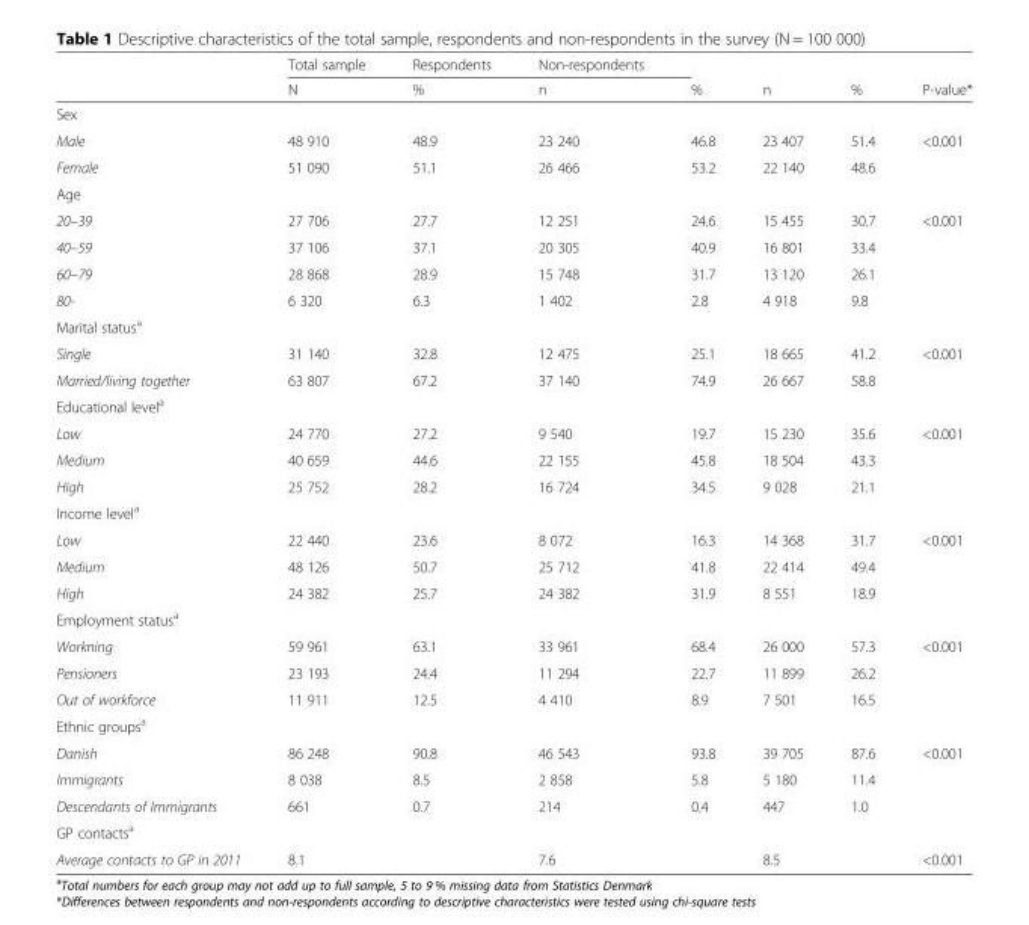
<table><thead><tr><td rowspan="2"></td><td rowspan="2">Total sample N</td><td rowspan="2">Respondents %</td><td rowspan="2">Non-respondents n</td><td rowspan="2">%</td><td rowspan="2">n</td><td rowspan="2">%</td><td rowspan="2">P-value*</td></tr><tr></tr></thead><tbody><tr><td colspan="8">Sex</td></tr><tr><td>Male</td><td>48 910</td><td>48.9</td><td>23 240</td><td>46.8</td><td>23 407</td><td>51.4</td><td rowspan="2">&lt;0.001</td></tr><tr><td>Female</td><td>51 090</td><td>51.1</td><td>26 466</td><td>53.2</td><td>22 140</td><td>48.6</td></tr><tr><td colspan="8">Age</td></tr><tr><td>20–39</td><td>27 706</td><td>27.7</td><td>12 251</td><td>24.6</td><td>15 455</td><td>30.7</td><td rowspan="4">&lt;0.001</td></tr><tr><td>40–59</td><td>37 106</td><td>37.1</td><td>20 305</td><td>40.9</td><td>16 801</td><td>33.4</td></tr><tr><td>60–79</td><td>28 868</td><td>28.9</td><td>15 748</td><td>31.7</td><td>13 120</td><td>26.1</td></tr><tr><td>80-</td><td>6 320</td><td>6.3</td><td>1 402</td><td>2.8</td><td>4 918</td><td>9.8</td></tr><tr><td colspan="8">Marital status<sup>a</sup></td></tr><tr><td>Single</td><td>31 140</td><td>32.8</td><td>12 475</td><td>25.1</td><td>18 665</td><td>41.2</td><td rowspan="2">&lt;0.001</td></tr><tr><td>Married/living together</td><td>63 807</td><td>67.2</td><td>37 140</td><td>74.9</td><td>26 667</td><td>58.8</td></tr><tr><td colspan="8">Educational level<sup>a</sup></td></tr><tr><td>Low</td><td>24 770</td><td>27.2</td><td>9 540</td><td>19.7</td><td>15 230</td><td>35.6</td><td rowspan="3">&lt;0.001</td></tr><tr><td>Medium</td><td>40 659</td><td>44.6</td><td>22 155</td><td>45.8</td><td>18 504</td><td>43.3</td></tr><tr><td>High</td><td>25 752</td><td>28.2</td><td>16 724</td><td>34.5</td><td>9 028</td><td>21.1</td></tr><tr><td colspan="8">Income level<sup>a</sup></td></tr><tr><td>Low</td><td>22 440</td><td>23.6</td><td>8 072</td><td>16.3</td><td>14 368</td><td>31.7</td><td rowspan="3">&lt;0.001</td></tr><tr><td>Medium</td><td>48 126</td><td>50.7</td><td>25 712</td><td>41.8</td><td>22 414</td><td>49.4</td></tr><tr><td>High</td><td>24 382</td><td>25.7</td><td>24 382</td><td>31.9</td><td>8 551</td><td>18.9</td></tr><tr><td colspan="8">Employment status<sup>a</sup></td></tr><tr><td>Workning</td><td>59 961</td><td>63.1</td><td>33 961</td><td>68.4</td><td>26 000</td><td>57.3</td><td rowspan="3">&lt;0.001</td></tr><tr><td>Pensioners</td><td>23 193</td><td>24.4</td><td>11 294</td><td>22.7</td><td>11 899</td><td>26.2</td></tr><tr><td>Out of workforce</td><td>11 911</td><td>12.5</td><td>4 410</td><td>8.9</td><td>7 501</td><td>16.5</td></tr><tr><td colspan="8">Ethnic groups<sup>a</sup></td></tr><tr><td>Danish</td><td>86 248</td><td>90.8</td><td>46 543</td><td>93.8</td><td>39 705</td><td>87.6</td><td rowspan="3">&lt;0.001</td></tr><tr><td>Immigrants</td><td>8 038</td><td>8.5</td><td>2 858</td><td>5.8</td><td>5 180</td><td>11.4</td></tr><tr><td>Descendants of Immigrants</td><td>661</td><td>0.7</td><td>214</td><td>0.4</td><td>447</td><td>1.0</td></tr><tr><td colspan="8">GP contacts<sup>a</sup></td></tr><tr><td>Average contacts to GP in 2011</td><td>8.1</td><td></td><td>7.6</td><td></td><td>8.5</td><td></td><td>&lt;0.001</td></tr></tbody></table>